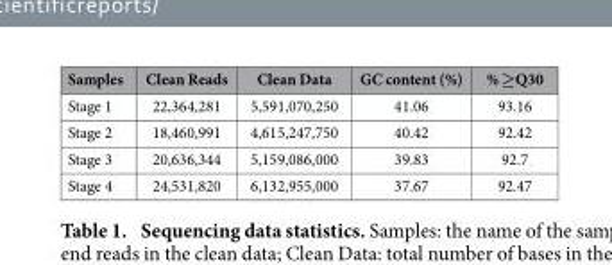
<table><thead><tr><td>Samples</td><td>Clean Reads</td><td>Clean Data</td><td>GC content (%)</td><td>% ≥Q30</td></tr></thead><tbody><tr><td>Stage 1</td><td>22,364,281</td><td>5,591,070,250</td><td>41.06</td><td>93.16</td></tr><tr><td>Stage 2</td><td>18,460,991</td><td>4,615,247,750</td><td>40.42</td><td>92.42</td></tr><tr><td>Stage 3</td><td>20,636,344</td><td>5,159,086,000</td><td>39.83</td><td>92.7</td></tr><tr><td>Stage 4</td><td>24,531,820</td><td>6,132,955,000</td><td>37.67</td><td>92.47</td></tr></tbody></table>